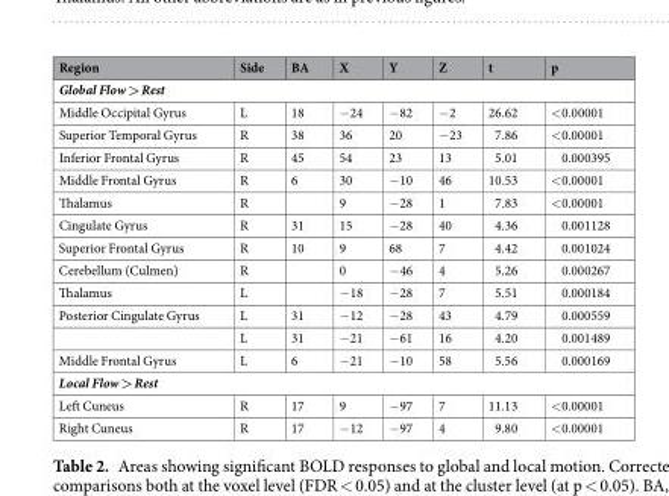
<table><thead><tr><td>Region</td><td>Side</td><td>BA</td><td>X</td><td>Y</td><td>Z</td><td>t</td><td>p</td></tr></thead><tbody><tr><td colspan="8">Global Flow &gt; Rest</td></tr><tr><td>Middle Occipital Gyrus</td><td>L</td><td>18</td><td>−24</td><td>−82</td><td>−2</td><td>26.62</td><td>&lt;0.00001</td></tr><tr><td>Superior Temporal Gyrus</td><td>R</td><td>38</td><td>36</td><td>20</td><td>−23</td><td>7.86</td><td>&lt;0.00001</td></tr><tr><td>Inferior Frontal Gyrus</td><td>R</td><td>45</td><td>54</td><td>23</td><td>13</td><td>5.01</td><td>0.000395</td></tr><tr><td>Middle Frontal Gyrus</td><td>R</td><td>6</td><td>30</td><td>−10</td><td>46</td><td>10.53</td><td>&lt;0.00001</td></tr><tr><td>Thalamus</td><td>R</td><td></td><td>9</td><td>−28</td><td>1</td><td>7.83</td><td>&lt;0.00001</td></tr><tr><td>Cingulate Gyrus</td><td>R</td><td>31</td><td>15</td><td>−28</td><td>40</td><td>4.36</td><td>0.001128</td></tr><tr><td>Superior Frontal Gyrus</td><td>R</td><td>10</td><td>9</td><td>68</td><td>7</td><td>4.42</td><td>0.001024</td></tr><tr><td>Cerebellum (Culmen)</td><td>R</td><td></td><td>0</td><td>−46</td><td>4</td><td>5.26</td><td>0.000267</td></tr><tr><td>Thalamus</td><td>L</td><td></td><td>−18</td><td>−28</td><td>7</td><td>5.51</td><td>0.000184</td></tr><tr><td rowspan="2">Posterior Cingulate Gyrus</td><td>L</td><td>31</td><td>−12</td><td>−28</td><td>43</td><td>4.79</td><td>0.000559</td></tr><tr><td>L</td><td>31</td><td>−21</td><td>−61</td><td>16</td><td>4.20</td><td>0.001489</td></tr><tr><td>Middle Frontal Gyrus</td><td>L</td><td>6</td><td>−21</td><td>−10</td><td>58</td><td>5.56</td><td>0.000169</td></tr><tr><td colspan="8">Local Flow &gt; Rest</td></tr><tr><td>Left Cuneus</td><td>R</td><td>17</td><td>9</td><td>−97</td><td>7</td><td>11.13</td><td>&lt;0.00001</td></tr><tr><td>Right Cuneus</td><td>R</td><td>17</td><td>−12</td><td>−97</td><td>4</td><td>9.80</td><td>&lt;0.00001</td></tr></tbody></table>